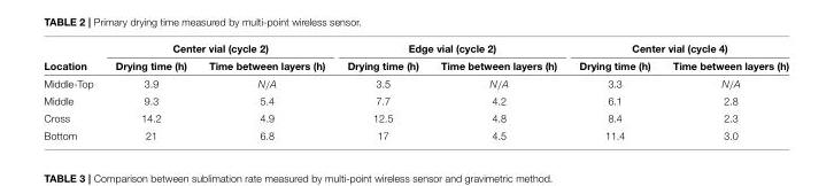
<table><thead><tr><td rowspan="2">Location</td><td colspan="2">Center vial (cycle 2)</td><td colspan="2">Edge vial (cycle 2)</td><td colspan="2">Center vial (cycle 4)</td></tr><tr><td>Drying time (h)</td><td>Time between layers (h)</td><td>Drying time (h)</td><td>Time between layers (h)</td><td>Drying time (h)</td><td>Time between layers (h)</td></tr></thead><tbody><tr><td>Middle-Top</td><td>3.9</td><td>N/A</td><td>3.5</td><td>N/A</td><td>3.3</td><td>N/A</td></tr><tr><td>Middle</td><td>9.3</td><td>5.4</td><td>7.7</td><td>4.2</td><td>6.1</td><td>2.8</td></tr><tr><td>Cross</td><td>14.2</td><td>4.9</td><td>12.5</td><td>4.8</td><td>8.4</td><td>2.3</td></tr><tr><td>Bottom</td><td>21</td><td>6.8</td><td>17</td><td>4.5</td><td>11.4</td><td>3.0</td></tr></tbody></table>